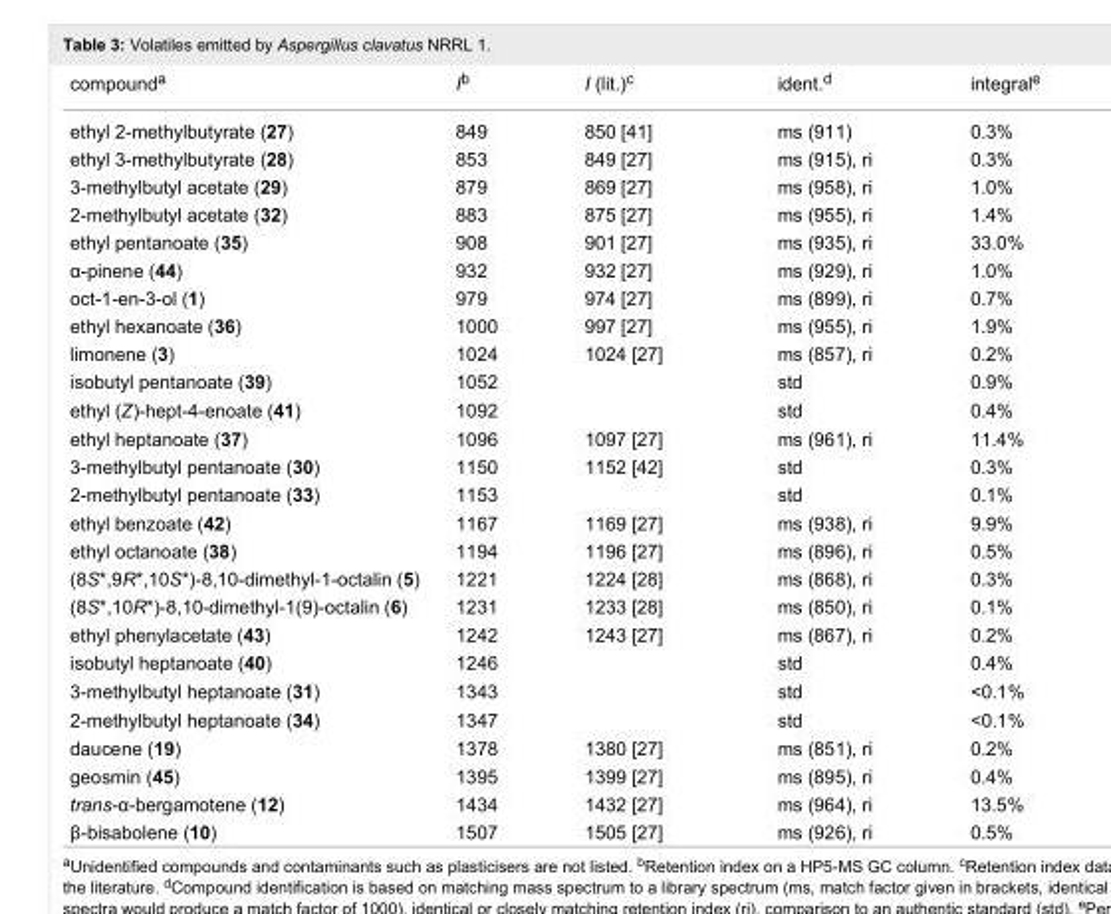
<table><tbody><tr><td>compound<sup>a</sup></td><td>I<sup>b</sup></td><td>I (lit.)<sup>c</sup></td><td>ident.<sup>d</sup></td><td>integral<sup>e</sup></td></tr><tr><td>ethyl 2-methylbutyrate (27)</td><td>849</td><td>850 [41]</td><td>ms (911)</td><td>0.3%</td></tr><tr><td>ethyl 3-methylbutyrate (28)</td><td>853</td><td>849 [27]</td><td>ms (915), ri</td><td>0.3%</td></tr><tr><td>3-methylbutyl acetate (29)</td><td>879</td><td>869 [27]</td><td>ms (958), ri</td><td>1.0%</td></tr><tr><td>2-methylbutyl acetate (32)</td><td>883</td><td>875 [27]</td><td>ms (955), ri</td><td>1.4%</td></tr><tr><td>ethyl pentanoate (35)</td><td>908</td><td>901 [27]</td><td>ms (935), ri</td><td>33.0%</td></tr><tr><td>α-pinene (44)</td><td>932</td><td>932 [27]</td><td>ms (929), ri</td><td>1.0%</td></tr><tr><td>oct-1-en-3-ol (1)</td><td>979</td><td>974 [27]</td><td>ms (899), ri</td><td>0.7%</td></tr><tr><td>ethyl hexanoate (36)</td><td>1000</td><td>997 [27]</td><td>ms (955), ri</td><td>1.9%</td></tr><tr><td>limonene (3)</td><td>1024</td><td>1024 [27]</td><td>ms (857), ri</td><td>0.2%</td></tr><tr><td>isobutyl pentanoate (39)</td><td>1052</td><td></td><td>std</td><td>0.9%</td></tr><tr><td>ethyl (Z)-hept-4-enoate (41)</td><td>1092</td><td></td><td>std</td><td>0.4%</td></tr><tr><td>ethyl heptanoate (37)</td><td>1096</td><td>1097 [27]</td><td>ms (961), ri</td><td>11.4%</td></tr><tr><td>3-methylbutyl pentanoate (30)</td><td>1150</td><td>1152 [42]</td><td>std</td><td>0.3%</td></tr><tr><td>2-methylbutyl pentanoate (33)</td><td>1153</td><td></td><td>std</td><td>0.1%</td></tr><tr><td>ethyl benzoate (42)</td><td>1167</td><td>1169 [27]</td><td>ms (938), ri</td><td>9.9%</td></tr><tr><td>ethyl octanoate (38)</td><td>1194</td><td>1196 [27]</td><td>ms (896), ri</td><td>0.5%</td></tr><tr><td>(8S*,9R*,10S*)-8,10-dimethyl-1-octalin (5)</td><td>1221</td><td>1224 [28]</td><td>ms (868), ri</td><td>0.3%</td></tr><tr><td>(8S*,10R*)-8,10-dimethyl-1(9)-octalin (6)</td><td>1231</td><td>1233 [28]</td><td>ms (850), ri</td><td>0.1%</td></tr><tr><td>ethyl phenylacetate (43)</td><td>1242</td><td>1243 [27]</td><td>ms (867), ri</td><td>0.2%</td></tr><tr><td>isobutyl heptanoate (40)</td><td>1246</td><td></td><td>std</td><td>0.4%</td></tr><tr><td>3-methylbutyl heptanoate (31)</td><td>1343</td><td></td><td>std</td><td>&lt;0.1%</td></tr><tr><td>2-methylbutyl heptanoate (34)</td><td>1347</td><td></td><td>std</td><td>&lt;0.1%</td></tr><tr><td>daucene (19)</td><td>1378</td><td>1380 [27]</td><td>ms (851), ri</td><td>0.2%</td></tr><tr><td>geosmin (45)</td><td>1395</td><td>1399 [27]</td><td>ms (895), ri</td><td>0.4%</td></tr><tr><td>trans-α-bergamotene (12)</td><td>1434</td><td>1432 [27]</td><td>ms (964), ri</td><td>13.5%</td></tr><tr><td>β-bisabolene (10)</td><td>1507</td><td>1505 [27]</td><td>ms (926), ri</td><td>0.5%</td></tr></tbody></table>